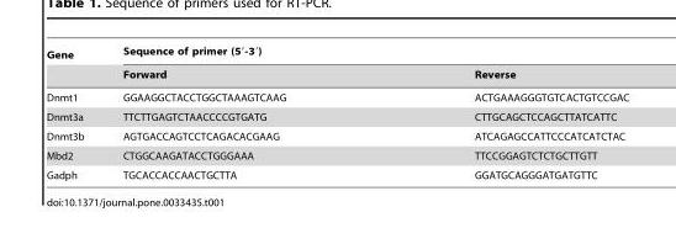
<table><thead><tr><td rowspan="2">Gene</td><td colspan="2">Sequence of primer (5′-3′)</td></tr><tr><td>Forward</td><td>Reverse</td></tr></thead><tbody><tr><td>Dnmt1</td><td>GGAAGGCTACCTGGCTAAAGTCAAG</td><td>ACTGAAAGGGTGTCACTGTCCGAC</td></tr><tr><td>Dnmt3a</td><td>TTCTTGAGTCTAACCCCGTGATG</td><td>CTTGCAGCTCCAGCTTATCATTC</td></tr><tr><td>Dnmt3b</td><td>AGTGACCAGTCCTCAGACACGAAG</td><td>ATCAGAGCCATTCCCATCATCTAC</td></tr><tr><td>Mbd2</td><td>CTGGCAAGATACCTGGGAAA</td><td>TTCCGGAGTCTCTGCTTGTT</td></tr><tr><td>Gadph</td><td>TGCACCACCAACTGCTTA</td><td>GGATGCAGGGATGATGTTC</td></tr></tbody></table>